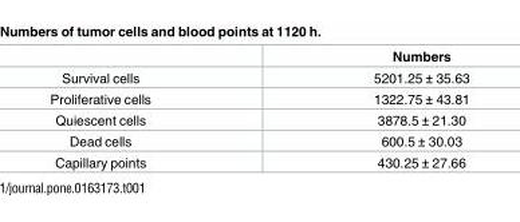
<table><thead><tr><td></td><td>Numbers</td></tr></thead><tbody><tr><td>Survival cells</td><td>5201.25 ± 35.63</td></tr><tr><td>Proliferative cells</td><td>1322.75 ± 43.81</td></tr><tr><td>Quiescent cells</td><td>3878.5 ± 21.30</td></tr><tr><td>Dead cells</td><td>600.5 ± 30.03</td></tr><tr><td>Capillary points</td><td>430.25 ± 27.66</td></tr></tbody></table>